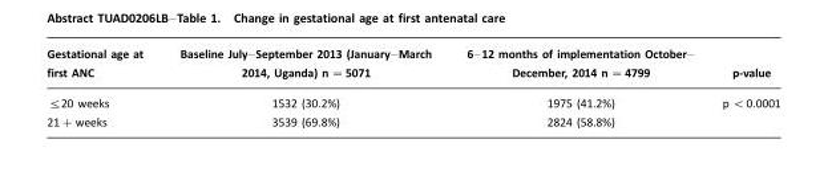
<table><thead><tr><td>Gestational age at first ANC</td><td>Baseline July–September 2013 (January–March 2014, Uganda) n =5071</td><td>6–12 months of implementation October– December, 2014 n =4799</td><td>p-value</td></tr></thead><tbody><tr><td>≤20 weeks</td><td>1532 (30.2%)</td><td>1975 (41.2%)</td><td>p &lt;0.0001</td></tr><tr><td>21+weeks</td><td>3539 (69.8%)</td><td>2824 (58.8%)</td><td></td></tr></tbody></table>